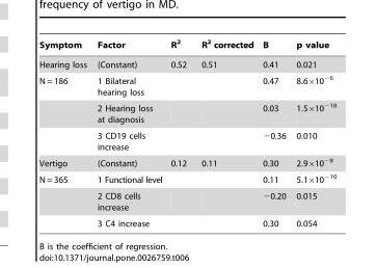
<table><thead><tr><td>Symptom</td><td>Factor</td><td>R<sup>2</sup></td><td>R<sup>2</sup> corrected</td><td>B</td><td>p value</td></tr></thead><tbody><tr><td>Hearing loss</td><td>(Constant)</td><td>0.52</td><td>0.51</td><td>0.41</td><td>0.021</td></tr><tr><td rowspan="3">N = 186</td><td>1 Bilateral hearing loss</td><td></td><td></td><td>0.47</td><td>8.6×10<sup>−6</sup></td></tr><tr><td>2 Hearing loss at diagnosis</td><td></td><td></td><td>0.03</td><td>1.5×10<sup>−18</sup></td></tr><tr><td>3 CD19 cells increase</td><td></td><td></td><td>−0.36</td><td>0.010</td></tr><tr><td>Vertigo</td><td>(Constant)</td><td>0.12</td><td>0.11</td><td>0.30</td><td>2.9×10<sup>−8</sup></td></tr><tr><td rowspan="3">N = 365</td><td>1 Functional level</td><td></td><td></td><td>0.11</td><td>5.1×10<sup>−10</sup></td></tr><tr><td>2 CD8 cells increase</td><td></td><td></td><td>−0.20</td><td>0.015</td></tr><tr><td>3 C4 increase</td><td></td><td></td><td>0.30</td><td>0.054</td></tr></tbody></table>